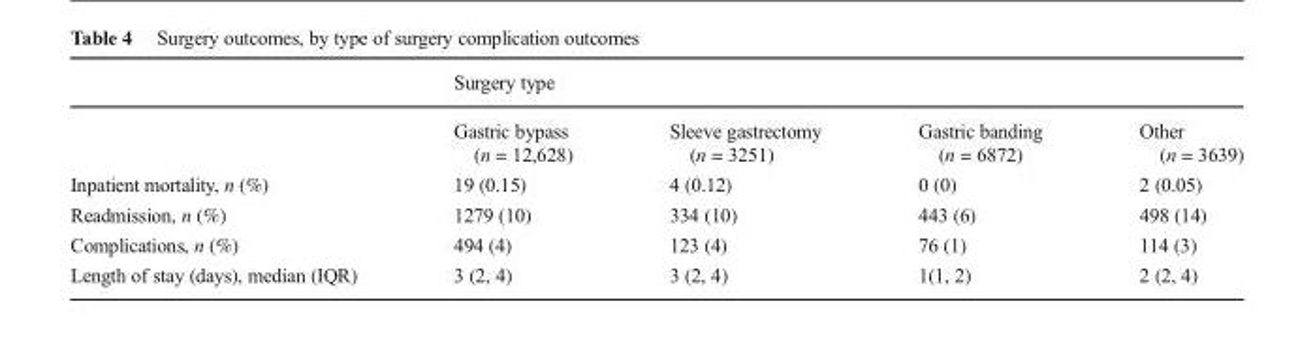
<table><thead><tr><td rowspan="2"></td><td colspan="4">Surgery type</td></tr><tr><td>Gastric bypass (n = 12,628)</td><td>Sleeve gastrectomy (n = 3251)</td><td>Gastric banding (n = 6872)</td><td>Other (n = 3639)</td></tr></thead><tbody><tr><td>Inpatient mortality, n (%)</td><td>19 (0.15)</td><td>4 (0.12)</td><td>0 (0)</td><td>2 (0.05)</td></tr><tr><td>Readmission, n (%)</td><td>1279 (10)</td><td>334 (10)</td><td>443 (6)</td><td>498 (14)</td></tr><tr><td>Complications, n (%)</td><td>494 (4)</td><td>123 (4)</td><td>76 (1)</td><td>114 (3)</td></tr><tr><td>Length of stay (days), median (IQR)</td><td>3 (2, 4)</td><td>3 (2, 4)</td><td>1(1, 2)</td><td>2 (2, 4)</td></tr></tbody></table>